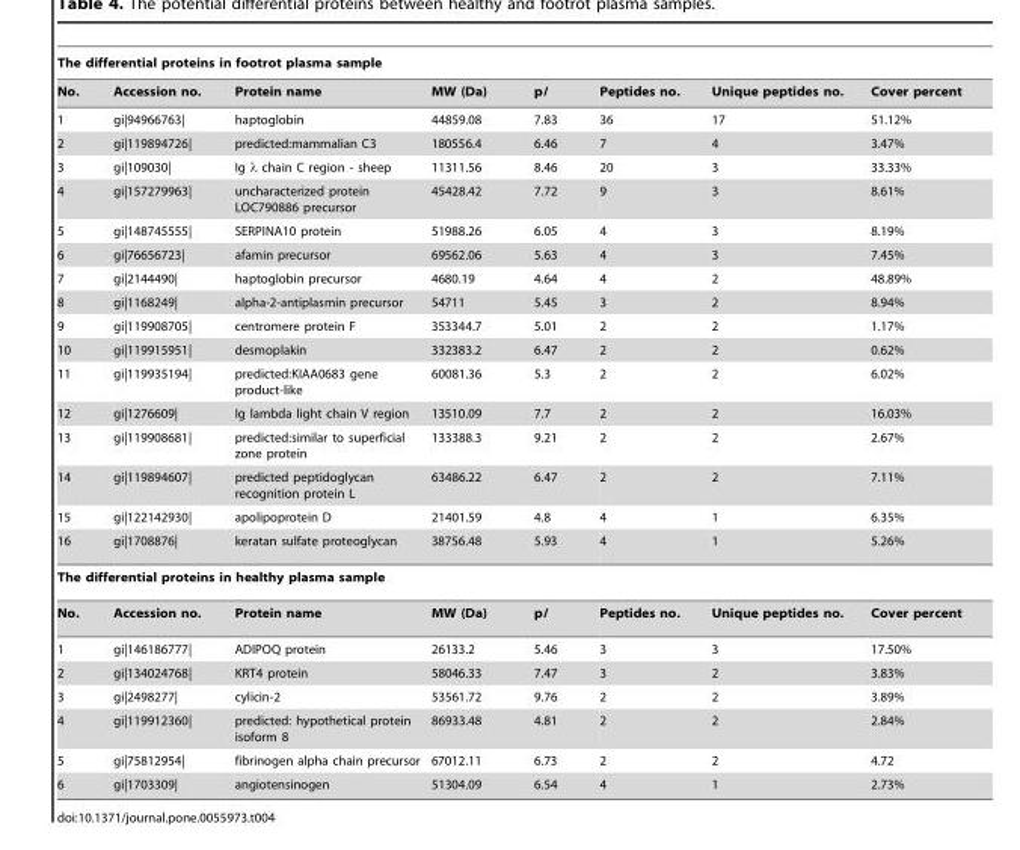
<table><thead><tr><td colspan="8">The differential proteins in footrot plasma sample</td></tr><tr><td>No.</td><td>Accession no.</td><td>Protein name</td><td>MW (Da)</td><td>pI</td><td>Peptides no.</td><td>Unique peptides no.</td><td>Cover percent</td></tr></thead><tbody><tr><td>1</td><td>gi|94966763|</td><td>haptoglobin</td><td>44859.08</td><td>7.83</td><td>36</td><td>17</td><td>51.12%</td></tr><tr><td>2</td><td>gi|119894726|</td><td>predicted:mammalian C3</td><td>180556.4</td><td>6.46</td><td>7</td><td>4</td><td>3.47%</td></tr><tr><td>3</td><td>gi|109030|</td><td>Ig λ chain C region - sheep</td><td>11311.56</td><td>8.46</td><td>20</td><td>3</td><td>33.33%</td></tr><tr><td>4</td><td>gi|157279963|</td><td>uncharacterized protein LOC790886 precursor</td><td>45428.42</td><td>7.72</td><td>9</td><td>3</td><td>8.61%</td></tr><tr><td>5</td><td>gi|148745555|</td><td>SERPINA10 protein</td><td>51988.26</td><td>6.05</td><td>4</td><td>3</td><td>8.19%</td></tr><tr><td>6</td><td>gi|76656723|</td><td>afamin precursor</td><td>69562.06</td><td>5.63</td><td>4</td><td>3</td><td>7.45%</td></tr><tr><td>7</td><td>gi|2144490|</td><td>haptoglobin precursor</td><td>4680.19</td><td>4.64</td><td>4</td><td>2</td><td>48.89%</td></tr><tr><td>8</td><td>gi|1168249|</td><td>alpha-2-antiplasmin precursor</td><td>54711</td><td>5.45</td><td>3</td><td>2</td><td>8.94%</td></tr><tr><td>9</td><td>gi|119908705|</td><td>centromere protein F</td><td>353344.7</td><td>5.01</td><td>2</td><td>2</td><td>1.17%</td></tr><tr><td>10</td><td>gi|119915951|</td><td>desmoplakin</td><td>332383.2</td><td>6.47</td><td>2</td><td>2</td><td>0.62%</td></tr><tr><td>11</td><td>gi|119935194|</td><td>predicted:KIAA0683 gene product-like</td><td>60081.36</td><td>5.3</td><td>2</td><td>2</td><td>6.02%</td></tr><tr><td>12</td><td>gi|1276609|</td><td>Ig lambda light chain V region</td><td>13510.09</td><td>7.7</td><td>2</td><td>2</td><td>16.03%</td></tr><tr><td>13</td><td>gi|119908681|</td><td>predicted:similar to superficial zone protein</td><td>133388.3</td><td>9.21</td><td>2</td><td>2</td><td>2.67%</td></tr><tr><td>14</td><td>gi|119894607|</td><td>predicted peptidoglycan recognition protein L</td><td>63486.22</td><td>6.47</td><td>2</td><td>2</td><td>7.11%</td></tr><tr><td>15</td><td>gi|122142930|</td><td>apolipoprotein D</td><td>21401.59</td><td>4.8</td><td>4</td><td>1</td><td>6.35%</td></tr><tr><td>16</td><td>gi|1708876|</td><td>keratan sulfate proteoglycan</td><td>38756.48</td><td>5.93</td><td>4</td><td>1</td><td>5.26%</td></tr><tr><td colspan="8">The differential proteins in healthy plasma sample</td></tr><tr><td>No.</td><td>Accession no.</td><td>Protein name</td><td>MW (Da)</td><td>pI</td><td>Peptides no.</td><td>Unique peptides no.</td><td>Cover percent</td></tr><tr><td>1</td><td>gi|146186777|</td><td>ADIPOQ protein</td><td>26133.2</td><td>5.46</td><td>3</td><td>3</td><td>17.50%</td></tr><tr><td>2</td><td>gi|134024768|</td><td>KRT4 protein</td><td>58046.33</td><td>7.47</td><td>3</td><td>2</td><td>3.83%</td></tr><tr><td>3</td><td>gi|2498277|</td><td>cylicin-2</td><td>53561.72</td><td>9.76</td><td>2</td><td>2</td><td>3.89%</td></tr><tr><td>4</td><td>gi|119912360|</td><td>predicted: hypothetical protein isoform 8</td><td>86933.48</td><td>4.81</td><td>2</td><td>2</td><td>2.84%</td></tr><tr><td>5</td><td>gi|75812954|</td><td>fibrinogen alpha chain precursor</td><td>67012.11</td><td>6.73</td><td>2</td><td>2</td><td>4.72</td></tr><tr><td>6</td><td>gi|1703309|</td><td>angiotensinogen</td><td>51304.09</td><td>6.54</td><td>4</td><td>1</td><td>2.73%</td></tr></tbody></table>